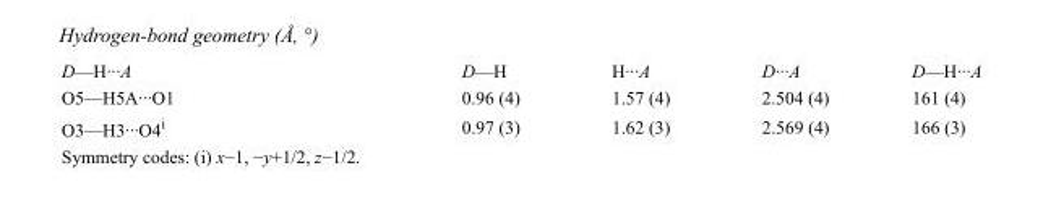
<table><tbody><tr><td>D—H···A</td><td>D—H</td><td>H···A</td><td>D···A</td><td>D—H···A</td></tr><tr><td>O5—H5A···O1</td><td>0.96 (4)</td><td>1.57 (4)</td><td>2.504 (4)</td><td>161 (4)</td></tr><tr><td>O3—H3···O4<sup>i</sup></td><td>0.97 (3)</td><td>1.62 (3)</td><td>2.569 (4)</td><td>166 (3)</td></tr></tbody></table>